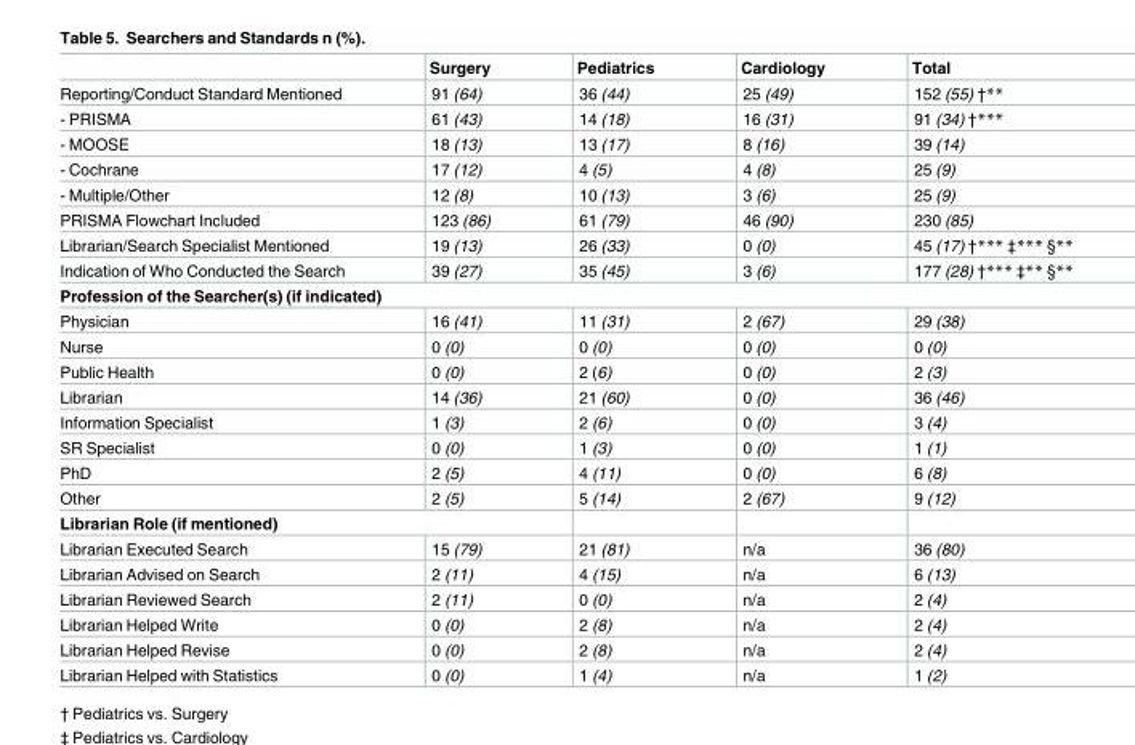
<table><thead><tr><td></td><td>Surgery</td><td>Pediatrics</td><td>Cardiology</td><td>Total</td></tr></thead><tbody><tr><td>Reporting/Conduct Standard Mentioned</td><td>91 (64)</td><td>36 (44)</td><td>25 (49)</td><td>152 (55) †**</td></tr><tr><td>- PRISMA</td><td>61 (43)</td><td>14 (18)</td><td>16 (31)</td><td>91 (34) †***</td></tr><tr><td>- MOOSE</td><td>18 (13)</td><td>13 (17)</td><td>8 (16)</td><td>39 (14)</td></tr><tr><td>- Cochrane</td><td>17 (12)</td><td>4 (5)</td><td>4 (8)</td><td>25 (9)</td></tr><tr><td>- Multiple/Other</td><td>12 (8)</td><td>10 (13)</td><td>3 (6)</td><td>25 (9)</td></tr><tr><td>PRISMA Flowchart Included</td><td>123 (86)</td><td>61 (79)</td><td>46 (90)</td><td>230 (85)</td></tr><tr><td>Librarian/Search Specialist Mentioned</td><td>19 (13)</td><td>26 (33)</td><td>0 (0)</td><td>45 (17) †*** ‡*** §**</td></tr><tr><td>Indication of Who Conducted the Search</td><td>39 (27)</td><td>35 (45)</td><td>3 (6)</td><td>177 (28) †*** ‡** §**</td></tr><tr><td colspan="5">Profession of the Searcher(s) (if indicated)</td></tr><tr><td>Physician</td><td>16 (41)</td><td>11 (31)</td><td>2 (67)</td><td>29 (38)</td></tr><tr><td>Nurse</td><td>0 (0)</td><td>0 (0)</td><td>0 (0)</td><td>0 (0)</td></tr><tr><td>Public Health</td><td>0 (0)</td><td>2 (6)</td><td>0 (0)</td><td>2 (3)</td></tr><tr><td>Librarian</td><td>14 (36)</td><td>21 (60)</td><td>0 (0)</td><td>36 (46)</td></tr><tr><td>Information Specialist</td><td>1 (3)</td><td>2 (6)</td><td>0 (0)</td><td>3 (4)</td></tr><tr><td>SR Specialist</td><td>0 (0)</td><td>1 (3)</td><td>0 (0)</td><td>1 (1)</td></tr><tr><td>PhD</td><td>2 (5)</td><td>4 (11)</td><td>0 (0)</td><td>6 (8)</td></tr><tr><td>Other</td><td>2 (5)</td><td>5 (14)</td><td>2 (67)</td><td>9 (12)</td></tr><tr><td colspan="5">Librarian Role (if mentioned)</td></tr><tr><td>Librarian Executed Search</td><td>15 (79)</td><td>21 (81)</td><td>n/a</td><td>36 (80)</td></tr><tr><td>Librarian Advised on Search</td><td>2 (11)</td><td>4 (15)</td><td>n/a</td><td>6 (13)</td></tr><tr><td>Librarian Reviewed Search</td><td>2 (11)</td><td>0 (0)</td><td>n/a</td><td>2 (4)</td></tr><tr><td>Librarian Helped Write</td><td>0 (0)</td><td>2 (8)</td><td>n/a</td><td>2 (4)</td></tr><tr><td>Librarian Helped Revise</td><td>0 (0)</td><td>2 (8)</td><td>n/a</td><td>2 (4)</td></tr><tr><td>Librarian Helped with Statistics</td><td>0 (0)</td><td>1 (4)</td><td>n/a</td><td>1 (2)</td></tr></tbody></table>